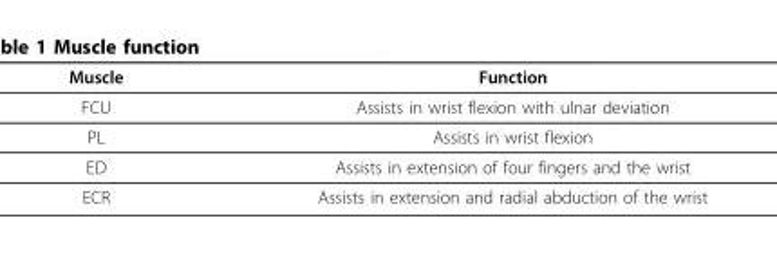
<table><thead><tr><td>Muscle</td><td>Function</td></tr></thead><tbody><tr><td>FCU</td><td>Assists in wrist flexion with ulnar deviation</td></tr><tr><td>PL</td><td>Assists in wrist flexion</td></tr><tr><td>ED</td><td>Assists in extension of four fingers and the wrist</td></tr><tr><td>ECR</td><td>Assists in extension and radial abduction of the wrist</td></tr></tbody></table>